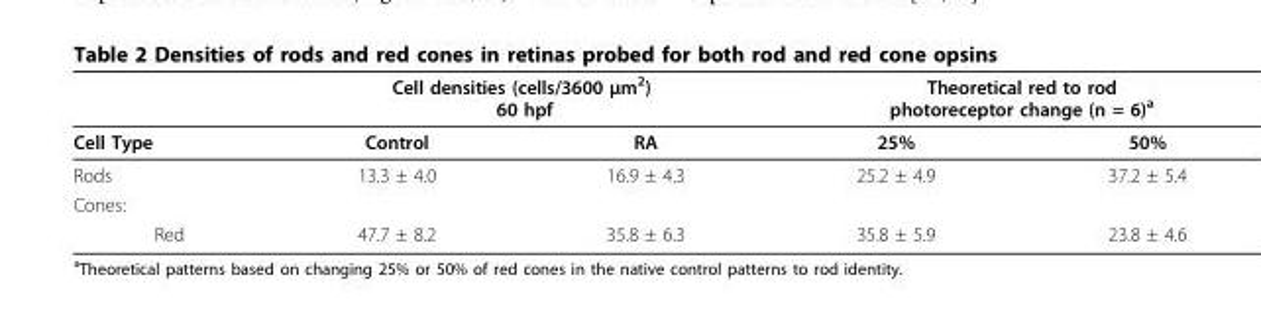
<table><thead><tr><td rowspan="2">Cell Type</td><td colspan="2">Cell densities (cells/3600 μm<sup>2</sup>) 60 hpf</td><td colspan="2">Theoretical red to rod photoreceptor change (n = 6)<sup>a</sup></td></tr><tr><td>Control</td><td>RA</td><td>25%</td><td>50%</td></tr></thead><tbody><tr><td>Rods</td><td>13.3 ± 4.0</td><td>16.9 ± 4.3</td><td>25.2 ± 4.9</td><td>37.2 ± 5.4</td></tr><tr><td colspan="5">Cones:</td></tr><tr><td>Red</td><td>47.7 ± 8.2</td><td>35.8 ± 6.3</td><td>35.8 ± 5.9</td><td>23.8 ± 4.6</td></tr></tbody></table>